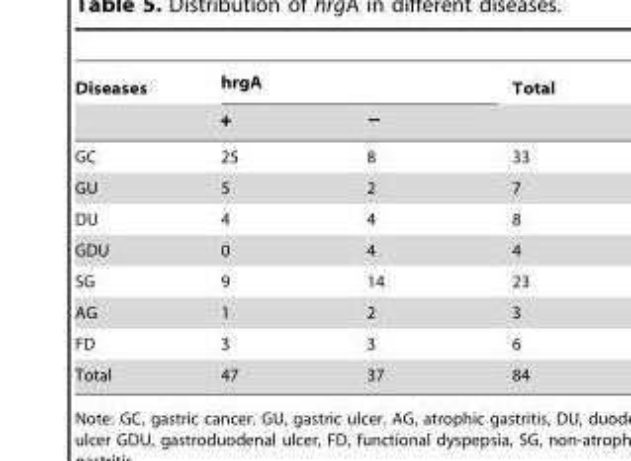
<table><thead><tr><td rowspan="2">Diseases</td><td colspan="2">hrgA</td><td rowspan="2">Total</td></tr><tr><td>+</td><td>−</td></tr></thead><tbody><tr><td>GC</td><td>25</td><td>8</td><td>33</td></tr><tr><td>GU</td><td>5</td><td>2</td><td>7</td></tr><tr><td>DU</td><td>4</td><td>4</td><td>8</td></tr><tr><td>GDU</td><td>0</td><td>4</td><td>4</td></tr><tr><td>SG</td><td>9</td><td>14</td><td>23</td></tr><tr><td>AG</td><td>1</td><td>2</td><td>3</td></tr><tr><td>FD</td><td>3</td><td>3</td><td>6</td></tr><tr><td>Total</td><td>47</td><td>37</td><td>84</td></tr></tbody></table>